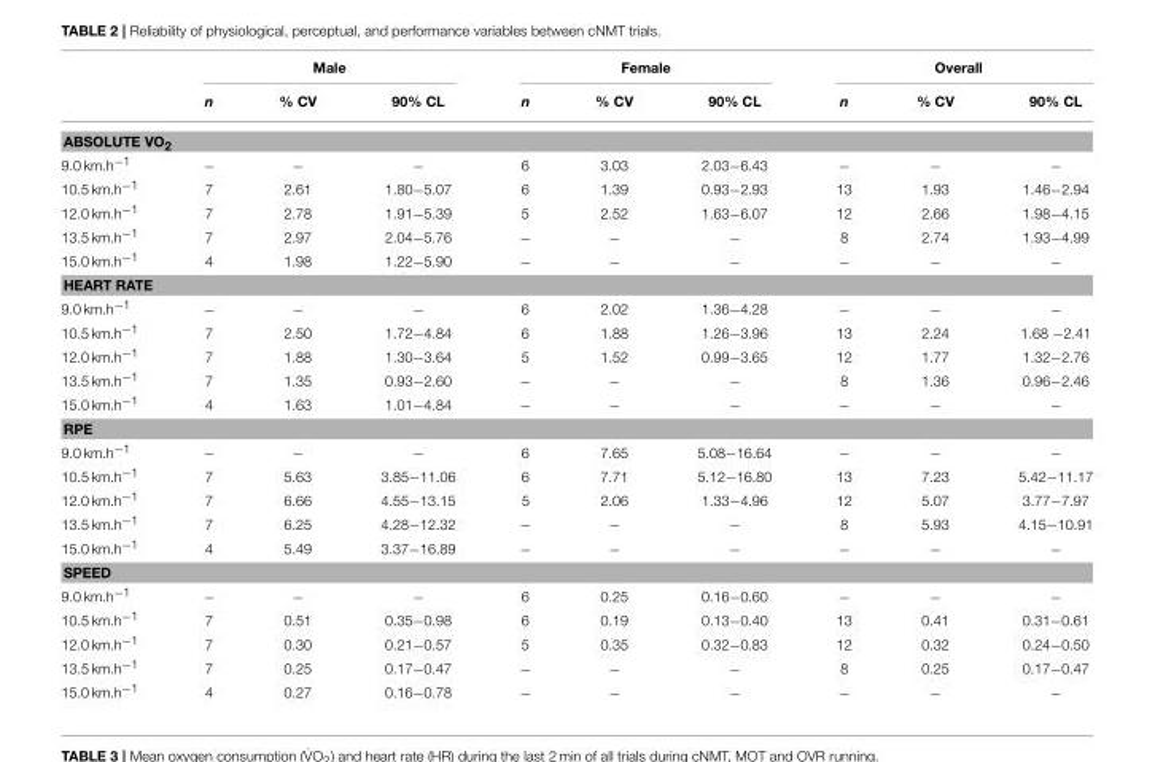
<table><thead><tr><td rowspan="2"></td><td colspan="3">Male</td><td colspan="3">Female</td><td colspan="3">Overall</td></tr><tr><td>n</td><td>% CV</td><td>90% CL</td><td>n</td><td>% CV</td><td>90% CL</td><td>n</td><td>% CV</td><td>90% CL</td></tr></thead><tbody><tr><td colspan="10">ABSOLUTE VO<sub>2</sub></td></tr><tr><td>9.0 km.h<sup>−1</sup></td><td>−</td><td>−</td><td>−</td><td>6</td><td>3.03</td><td>2.03−6.43</td><td>−</td><td>−</td><td>−</td></tr><tr><td>10.5 km.h<sup>−1</sup></td><td>7</td><td>2.61</td><td>1.80−5.07</td><td>6</td><td>1.39</td><td>0.93−2.93</td><td>13</td><td>1.93</td><td>1.46−2.94</td></tr><tr><td>12.0 km.h<sup>−1</sup></td><td>7</td><td>2.78</td><td>1.91−5.39</td><td>5</td><td>2.52</td><td>1.63−6.07</td><td>12</td><td>2.66</td><td>1.98−4.15</td></tr><tr><td>13.5 km.h<sup>−1</sup></td><td>7</td><td>2.97</td><td>2.04−5.76</td><td>−</td><td>−</td><td>−</td><td>8</td><td>2.74</td><td>1.93−4.99</td></tr><tr><td>15.0 km.h<sup>−1</sup></td><td>4</td><td>1.98</td><td>1.22−5.90</td><td>−</td><td>−</td><td>−</td><td>−</td><td>−</td><td>−</td></tr><tr><td colspan="10">HEART RATE</td></tr><tr><td>9.0 km.h<sup>−1</sup></td><td>−</td><td>−</td><td>−</td><td>6</td><td>2.02</td><td>1.36−4.28</td><td>−</td><td>−</td><td>−</td></tr><tr><td>10.5 km.h<sup>−1</sup></td><td>7</td><td>2.50</td><td>1.72−4.84</td><td>6</td><td>1.88</td><td>1.26−3.96</td><td>13</td><td>2.24</td><td>1.68 −2.41</td></tr><tr><td>12.0 km.h<sup>−1</sup></td><td>7</td><td>1.88</td><td>1.30−3.64</td><td>5</td><td>1.52</td><td>0.99−3.65</td><td>12</td><td>1.77</td><td>1.32−2.76</td></tr><tr><td>13.5 km.h<sup>−1</sup></td><td>7</td><td>1.35</td><td>0.93−2.60</td><td>−</td><td>−</td><td>−</td><td>8</td><td>1.36</td><td>0.96−2.46</td></tr><tr><td>15.0 km.h<sup>−1</sup></td><td>4</td><td>1.63</td><td>1.01−4.84</td><td>−</td><td>−</td><td>−</td><td>−</td><td>−</td><td>−</td></tr><tr><td colspan="10">RPE</td></tr><tr><td>9.0 km.h<sup>−1</sup></td><td>−</td><td>−</td><td>−</td><td>6</td><td>7.65</td><td>5.08−16.64</td><td>−</td><td>−</td><td>−</td></tr><tr><td>10.5 km.h<sup>−1</sup></td><td>7</td><td>5.63</td><td>3.85−11.06</td><td>6</td><td>7.71</td><td>5.12−16.80</td><td>13</td><td>7.23</td><td>5.42−11.17</td></tr><tr><td>12.0 km.h<sup>−1</sup></td><td>7</td><td>6.66</td><td>4.55−13.15</td><td>5</td><td>2.06</td><td>1.33−4.96</td><td>12</td><td>5.07</td><td>3.77−7.97</td></tr><tr><td>13.5 km.h<sup>−1</sup></td><td>7</td><td>6.25</td><td>4.28−12.32</td><td>−</td><td>−</td><td>−</td><td>8</td><td>5.93</td><td>4.15−10.91</td></tr><tr><td>15.0 km.h<sup>−1</sup></td><td>4</td><td>5.49</td><td>3.37−16.89</td><td>−</td><td>−</td><td>−</td><td>−</td><td>−</td><td>−</td></tr><tr><td colspan="10">SPEED</td></tr><tr><td>9.0 km.h<sup>−1</sup></td><td>−</td><td>−</td><td>−</td><td>6</td><td>0.25</td><td>0.16−0.60</td><td>−</td><td>−</td><td>−</td></tr><tr><td>10.5 km.h<sup>−1</sup></td><td>7</td><td>0.51</td><td>0.35−0.98</td><td>6</td><td>0.19</td><td>0.13−0.40</td><td>13</td><td>0.41</td><td>0.31−0.61</td></tr><tr><td>12.0 km.h<sup>−1</sup></td><td>7</td><td>0.30</td><td>0.21−0.57</td><td>5</td><td>0.35</td><td>0.32−0.83</td><td>12</td><td>0.32</td><td>0.24−0.50</td></tr><tr><td>13.5 km.h<sup>−1</sup></td><td>7</td><td>0.25</td><td>0.17−0.47</td><td>−</td><td>−</td><td>−</td><td>8</td><td>0.25</td><td>0.17−0.47</td></tr><tr><td>15.0 km.h<sup>−1</sup></td><td>4</td><td>0.27</td><td>0.16−0.78</td><td>−</td><td>−</td><td>−</td><td>−</td><td>−</td><td>−</td></tr></tbody></table>